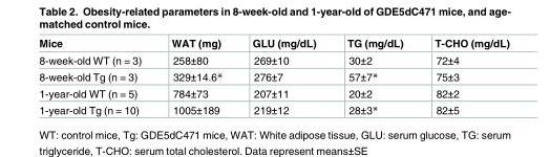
<table><thead><tr><td>Mice</td><td>WAT (mg)</td><td>GLU (mg/dL)</td><td>TG (mg/dL)</td><td>T-CHO (mg/dL)</td></tr></thead><tbody><tr><td>8-week-old WT (n = 3)</td><td>258±80</td><td>269±10</td><td>30±2</td><td>72±4</td></tr><tr><td>8-week-old Tg (n = 3)</td><td>329±14.6*</td><td>276±7</td><td>57±7*</td><td>75±3</td></tr><tr><td>1-year-old WT (n = 5)</td><td>784±73</td><td>207±11</td><td>20±2</td><td>82±2</td></tr><tr><td>1-year-old Tg (n = 10)</td><td>1005±189</td><td>219±12</td><td>28±3*</td><td>82±5</td></tr></tbody></table>